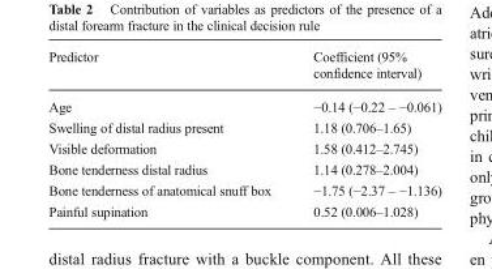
<table><thead><tr><td>Predictor</td><td>Coefficient (95% confidence interval)</td></tr></thead><tbody><tr><td>Age</td><td>−0.14 (−0.22 – −0.061)</td></tr><tr><td>Swelling of distal radius present</td><td>1.18 (0.706–1.65)</td></tr><tr><td>Visible deformation</td><td>1.58 (0.412–2.745)</td></tr><tr><td>Bone tenderness distal radius</td><td>1.14 (0.278–2.004)</td></tr><tr><td>Bone tenderness of anatomical snuff box</td><td>−1.75 (−2.37 – −1.136)</td></tr><tr><td>Painful supination</td><td>0.52 (0.006–1.028)</td></tr></tbody></table>